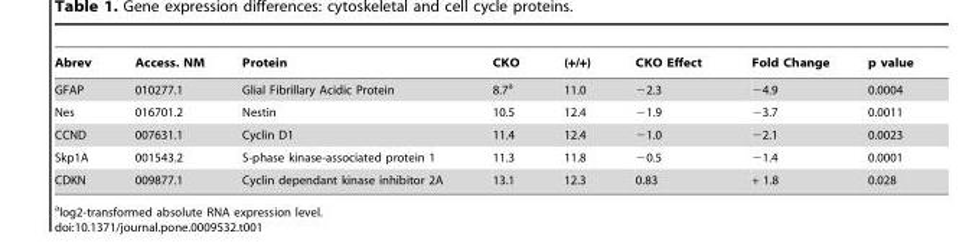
<table><thead><tr><td>Abrev</td><td>Access. NM</td><td>Protein</td><td>CKO</td><td>(+/+)</td><td>CKO Effect</td><td>Fold Change</td><td>p value</td></tr></thead><tbody><tr><td>GFAP</td><td>010277.1</td><td>Glial Fibrillary Acidic Protein</td><td>8.7<sup>a</sup></td><td>11.0</td><td>−2.3</td><td>−4.9</td><td>0.0004</td></tr><tr><td>Nes</td><td>016701.2</td><td>Nestin</td><td>10.5</td><td>12.4</td><td>−1.9</td><td>−3.7</td><td>0.0011</td></tr><tr><td>CCND</td><td>007631.1</td><td>Cyclin D1</td><td>11.4</td><td>12.4</td><td>−1.0</td><td>−2.1</td><td>0.0023</td></tr><tr><td>Skp1A</td><td>001543.2</td><td>S-phase kinase-associated protein 1</td><td>11.3</td><td>11.8</td><td>−0.5</td><td>−1.4</td><td>0.0001</td></tr><tr><td>CDKN</td><td>009877.1</td><td>Cyclin dependant kinase inhibitor 2A</td><td>13.1</td><td>12.3</td><td>0.83</td><td>+ 1.8</td><td>0.028</td></tr></tbody></table>